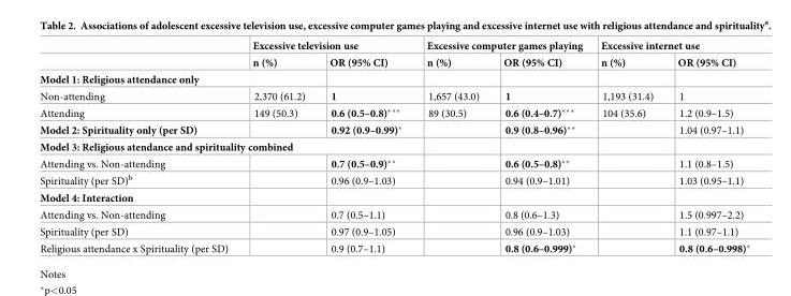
<table><thead><tr><td rowspan="2"></td><td colspan="2">Excessive television use</td><td colspan="2">Excessive computer games playing</td><td colspan="2">Excessive internet use</td></tr><tr><td>n (%)</td><td>OR (95% CI)</td><td>n (%)</td><td>OR (95% CI)</td><td>n (%)</td><td>OR (95% CI)</td></tr></thead><tbody><tr><td colspan="7">Model 1: Religious attendance only</td></tr><tr><td>Non-attending</td><td>2,370 (61.2)</td><td>1</td><td>1,657 (43.0)</td><td>1</td><td>1,193 (31.4)</td><td>1</td></tr><tr><td>Attending</td><td>149 (50.3)</td><td>0.6 (0.5–0.8)***</td><td>89 (30.5)</td><td>0.6 (0.4–0.7)***</td><td>104 (35.6)</td><td>1.2 (0.9–1.5)</td></tr><tr><td>Model 2: Spirituality only (per SD)</td><td></td><td>0.92 (0.9–0.99)*</td><td></td><td>0.9 (0.8–0.96)**</td><td></td><td>1.04 (0.97–1.1)</td></tr><tr><td colspan="7">Model 3: Religious atendance and spirituality combined</td></tr><tr><td>Attending vs. Non-attending</td><td></td><td>0.7 (0.5–0.9)**</td><td></td><td>0.6 (0.5–0.8)**</td><td></td><td>1.1 (0.8–1.5)</td></tr><tr><td>Spirituality (per SD)<sup>b</sup></td><td></td><td>0.96 (0.9–1.03)</td><td></td><td>0.94 (0.9–1.01)</td><td></td><td>1.03 (0.95–1.1)</td></tr><tr><td colspan="7">Model 4: Interaction</td></tr><tr><td>Attending vs. Non-attending</td><td></td><td>0.7 (0.5–1.1)</td><td></td><td>0.8 (0.6–1.3)</td><td></td><td>1.5 (0.997–2.2)</td></tr><tr><td>Spirituality (per SD)</td><td></td><td>0.97 (0.9–1.05)</td><td></td><td>0.96 (0.9–1.03)</td><td></td><td>1.1 (0.97–1.1)</td></tr><tr><td>Religious attendance x Spirituality (per SD)</td><td></td><td>0.9 (0.7–1.1)</td><td></td><td>0.8 (0.6–0.999)*</td><td></td><td>0.8 (0.6–0.998)*</td></tr></tbody></table>